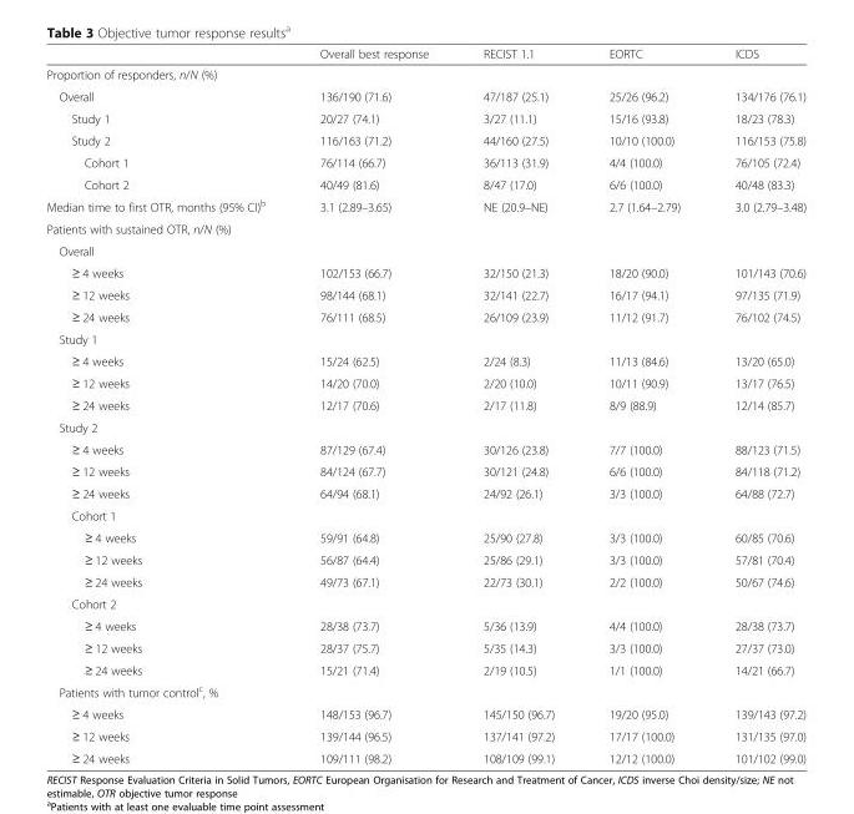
<table><thead><tr><td></td><td>Overall best response</td><td>RECIST 1.1</td><td>EORTC</td><td>ICDS</td></tr></thead><tbody><tr><td colspan="5">Proportion of responders, n/N (%)</td></tr><tr><td>Overall</td><td>136/190 (71.6)</td><td>47/187 (25.1)</td><td>25/26 (96.2)</td><td>134/176 (76.1)</td></tr><tr><td>Study 1</td><td>20/27 (74.1)</td><td>3/27 (11.1)</td><td>15/16 (93.8)</td><td>18/23 (78.3)</td></tr><tr><td>Study 2</td><td>116/163 (71.2)</td><td>44/160 (27.5)</td><td>10/10 (100.0)</td><td>116/153 (75.8)</td></tr><tr><td>Cohort 1</td><td>76/114 (66.7)</td><td>36/113 (31.9)</td><td>4/4 (100.0)</td><td>76/105 (72.4)</td></tr><tr><td>Cohort 2</td><td>40/49 (81.6)</td><td>8/47 (17.0)</td><td>6/6 (100.0)</td><td>40/48 (83.3)</td></tr><tr><td>Median time to first OTR, months (95% CI)<sup>b</sup></td><td>3.1 (2.89–3.65)</td><td>NE (20.9–NE)</td><td>2.7 (1.64–2.79)</td><td>3.0 (2.79–3.48)</td></tr><tr><td colspan="5">Patients with sustained OTR, n/N (%)</td></tr><tr><td colspan="5">Overall</td></tr><tr><td>≥ 4 weeks</td><td>102/153 (66.7)</td><td>32/150 (21.3)</td><td>18/20 (90.0)</td><td>101/143 (70.6)</td></tr><tr><td>≥ 12 weeks</td><td>98/144 (68.1)</td><td>32/141 (22.7)</td><td>16/17 (94.1)</td><td>97/135 (71.9)</td></tr><tr><td>≥ 24 weeks</td><td>76/111 (68.5)</td><td>26/109 (23.9)</td><td>11/12 (91.7)</td><td>76/102 (74.5)</td></tr><tr><td colspan="5">Study 1</td></tr><tr><td>≥ 4 weeks</td><td>15/24 (62.5)</td><td>2/24 (8.3)</td><td>11/13 (84.6)</td><td>13/20 (65.0)</td></tr><tr><td>≥ 12 weeks</td><td>14/20 (70.0)</td><td>2/20 (10.0)</td><td>10/11 (90.9)</td><td>13/17 (76.5)</td></tr><tr><td>≥ 24 weeks</td><td>12/17 (70.6)</td><td>2/17 (11.8)</td><td>8/9 (88.9)</td><td>12/14 (85.7)</td></tr><tr><td colspan="5">Study 2</td></tr><tr><td>≥ 4 weeks</td><td>87/129 (67.4)</td><td>30/126 (23.8)</td><td>7/7 (100.0)</td><td>88/123 (71.5)</td></tr><tr><td>≥ 12 weeks</td><td>84/124 (67.7)</td><td>30/121 (24.8)</td><td>6/6 (100.0)</td><td>84/118 (71.2)</td></tr><tr><td>≥ 24 weeks</td><td>64/94 (68.1)</td><td>24/92 (26.1)</td><td>3/3 (100.0)</td><td>64/88 (72.7)</td></tr><tr><td colspan="5">Cohort 1</td></tr><tr><td>≥ 4 weeks</td><td>59/91 (64.8)</td><td>25/90 (27.8)</td><td>3/3 (100.0)</td><td>60/85 (70.6)</td></tr><tr><td>≥ 12 weeks</td><td>56/87 (64.4)</td><td>25/86 (29.1)</td><td>3/3 (100.0)</td><td>57/81 (70.4)</td></tr><tr><td>≥ 24 weeks</td><td>49/73 (67.1)</td><td>22/73 (30.1)</td><td>2/2 (100.0)</td><td>50/67 (74.6)</td></tr><tr><td colspan="5">Cohort 2</td></tr><tr><td>≥ 4 weeks</td><td>28/38 (73.7)</td><td>5/36 (13.9)</td><td>4/4 (100.0)</td><td>28/38 (73.7)</td></tr><tr><td>≥ 12 weeks</td><td>28/37 (75.7)</td><td>5/35 (14.3)</td><td>3/3 (100.0)</td><td>27/37 (73.0)</td></tr><tr><td>≥ 24 weeks</td><td>15/21 (71.4)</td><td>2/19 (10.5)</td><td>1/1 (100.0)</td><td>14/21 (66.7)</td></tr><tr><td colspan="5">Patients with tumor control<sup>c</sup>, %</td></tr><tr><td>≥ 4 weeks</td><td>148/153 (96.7)</td><td>145/150 (96.7)</td><td>19/20 (95.0)</td><td>139/143 (97.2)</td></tr><tr><td>≥ 12 weeks</td><td>139/144 (96.5)</td><td>137/141 (97.2)</td><td>17/17 (100.0)</td><td>131/135 (97.0)</td></tr><tr><td>≥ 24 weeks</td><td>109/111 (98.2)</td><td>108/109 (99.1)</td><td>12/12 (100.0)</td><td>101/102 (99.0)</td></tr></tbody></table>